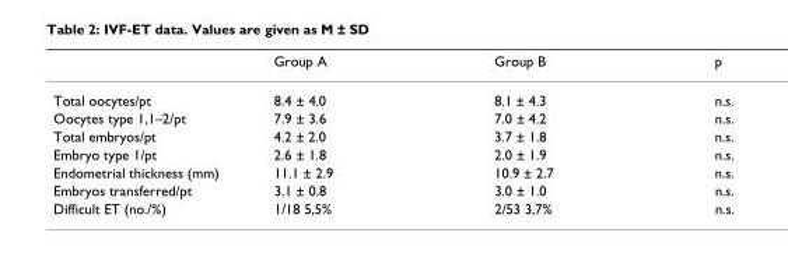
<table><thead><tr><td></td><td>Group A</td><td>Group B</td><td>p</td></tr></thead><tbody><tr><td>Total oocytes/pt</td><td>8.4 ± 4.0</td><td>8.1 ± 4.3</td><td>n.s.</td></tr><tr><td>Oocytes type 1,1–2/pt</td><td>7.9 ± 3.6</td><td>7.0 ± 4.2</td><td>n.s.</td></tr><tr><td>Total embryos/pt</td><td>4.2 ± 2.0</td><td>3.7 ± 1.8</td><td>n.s.</td></tr><tr><td>Embryo type 1/pt</td><td>2.6 ± 1.8</td><td>2.0 ± 1.9</td><td>n.s.</td></tr><tr><td>Endometrial thickness (mm)</td><td>11.1 ± 2.9</td><td>10.9 ± 2.7</td><td>n.s.</td></tr><tr><td>Embryos transferred/pt</td><td>3.1 ± 0.8</td><td>3.0 ± 1.0</td><td>n.s.</td></tr><tr><td>Difficult ET (no./%)</td><td>1/18 5,5%</td><td>2/53 3,7%</td><td>n.s.</td></tr></tbody></table>